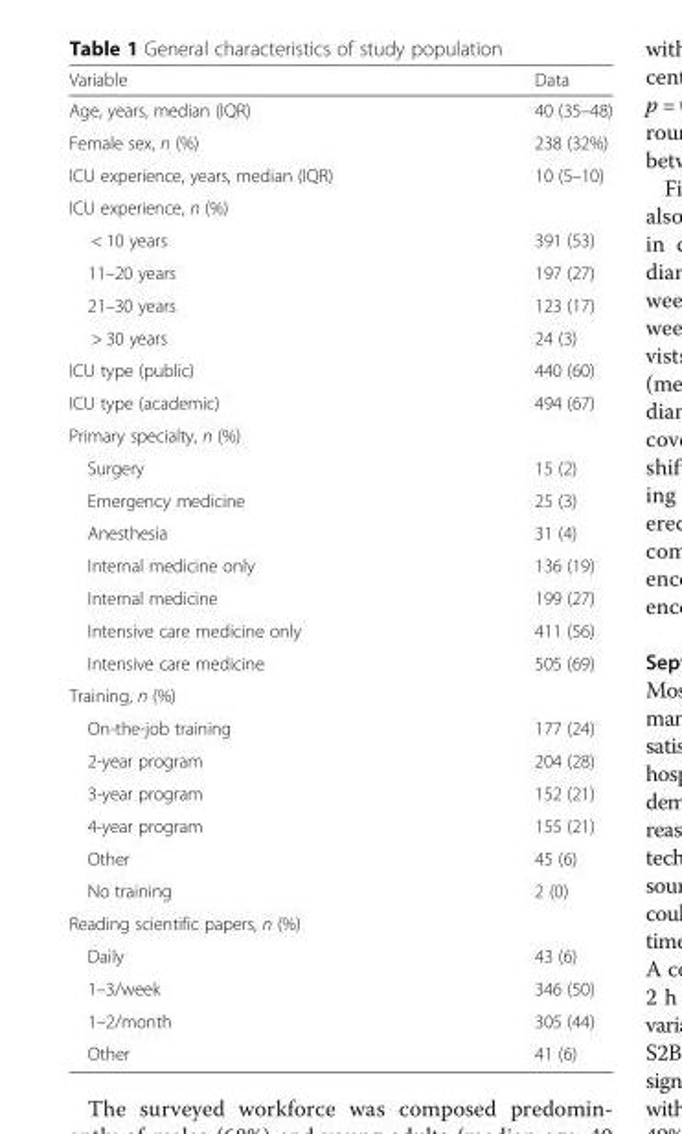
<table><thead><tr><td>Variable</td><td>Data</td></tr></thead><tbody><tr><td>Age, years, median (IQR)</td><td>40 (35–48)</td></tr><tr><td>Female sex, n (%)</td><td>238 (32%)</td></tr><tr><td>ICU experience, years, median (IQR)</td><td>10 (5–10)</td></tr><tr><td colspan="2">ICU experience, n (%)</td></tr><tr><td>&lt; 10 years</td><td>391 (53)</td></tr><tr><td>11–20 years</td><td>197 (27)</td></tr><tr><td>21–30 years</td><td>123 (17)</td></tr><tr><td>&gt; 30 years</td><td>24 (3)</td></tr><tr><td>ICU type (public)</td><td>440 (60)</td></tr><tr><td>ICU type (academic)</td><td>494 (67)</td></tr><tr><td colspan="2">Primary specialty, n (%)</td></tr><tr><td>Surgery</td><td>15 (2)</td></tr><tr><td>Emergency medicine</td><td>25 (3)</td></tr><tr><td>Anesthesia</td><td>31 (4)</td></tr><tr><td>Internal medicine only</td><td>136 (19)</td></tr><tr><td>Internal medicine</td><td>199 (27)</td></tr><tr><td>Intensive care medicine only</td><td>411 (56)</td></tr><tr><td>Intensive care medicine</td><td>505 (69)</td></tr><tr><td colspan="2">Training, n (%)</td></tr><tr><td>On-the-job training</td><td>177 (24)</td></tr><tr><td>2-year program</td><td>204 (28)</td></tr><tr><td>3-year program</td><td>152 (21)</td></tr><tr><td>4-year program</td><td>155 (21)</td></tr><tr><td>Other</td><td>45 (6)</td></tr><tr><td>No training</td><td>2 (0)</td></tr><tr><td colspan="2">Reading scientific papers, n (%)</td></tr><tr><td>Daily</td><td>43 (6)</td></tr><tr><td>1–3/week</td><td>346 (50)</td></tr><tr><td>1–2/month</td><td>305 (44)</td></tr><tr><td>Other</td><td>41 (6)</td></tr></tbody></table>